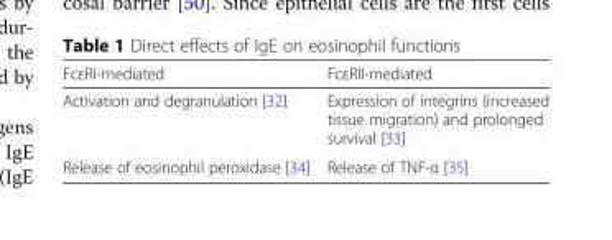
<table><thead><tr><td>FcεRI-mediated</td><td>FcεRII-mediated</td></tr></thead><tbody><tr><td>Activation and degranulation [32]</td><td>Expression of integrins (increased tissue migration) and prolonged survival [33]</td></tr><tr><td>Release of eosinophil peroxidase [34]</td><td>Release of TNF-α [35]</td></tr></tbody></table>